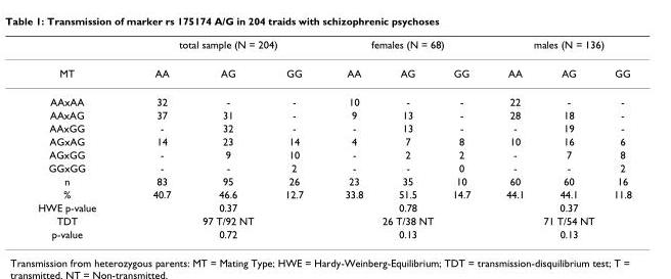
<table><thead><tr><td rowspan="2">MT</td><td colspan="3">total sample (N = 204)</td><td colspan="3">females (N = 68)</td><td colspan="3">males (N = 136)</td></tr><tr><td>AA</td><td>AG</td><td>GG</td><td>AA</td><td>AG</td><td>GG</td><td>AA</td><td>AG</td><td>GG</td></tr></thead><tbody><tr><td>AAxAA</td><td>32</td><td>-</td><td>-</td><td>10</td><td>-</td><td>-</td><td>22</td><td>-</td><td>-</td></tr><tr><td>AAxAG</td><td>37</td><td>31</td><td>-</td><td>9</td><td>13</td><td>-</td><td>28</td><td>18</td><td>-</td></tr><tr><td>AAxGG</td><td>-</td><td>32</td><td>-</td><td>-</td><td>13</td><td>-</td><td>-</td><td>19</td><td>-</td></tr><tr><td>AGxAG</td><td>14</td><td>23</td><td>14</td><td>4</td><td>7</td><td>8</td><td>10</td><td>16</td><td>6</td></tr><tr><td>AGxGG</td><td>-</td><td>9</td><td>10</td><td>-</td><td>2</td><td>2</td><td>-</td><td>7</td><td>8</td></tr><tr><td>GGxGG</td><td>-</td><td>-</td><td>2</td><td>-</td><td>-</td><td>0</td><td>-</td><td>-</td><td>2</td></tr><tr><td>n</td><td>83</td><td>95</td><td>26</td><td>23</td><td>35</td><td>10</td><td>60</td><td>60</td><td>16</td></tr><tr><td>%</td><td>40.7</td><td>46.6</td><td>12.7</td><td>33.8</td><td>51.5</td><td>14.7</td><td>44.1</td><td>44.1</td><td>11.8</td></tr><tr><td>HWE p-value</td><td colspan="3">0.37</td><td colspan="3">0.78</td><td colspan="3">0.37</td></tr><tr><td>TDT</td><td colspan="3">97 T/92 NT</td><td colspan="3">26 T/38 NT</td><td colspan="3">71 T/54 NT</td></tr><tr><td>p-value</td><td colspan="3">0.72</td><td colspan="3">0.13</td><td colspan="3">0.13</td></tr></tbody></table>